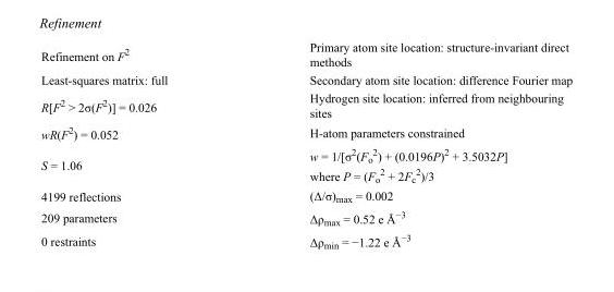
<table><tbody><tr><td>Refinement on F<sup>2</sup></td><td>Primary atom site location: structure-invariant direct methods</td></tr><tr><td>Least-squares matrix: full</td><td>Secondary atom site location: difference Fourier map</td></tr><tr><td>R[F<sup>2</sup> &gt; 2σ(F<sup>2</sup>)] = 0.026</td><td>Hydrogen site location: inferred from neighbouring sites</td></tr><tr><td>wR(F<sup>2</sup>) = 0.052</td><td>H-atom parameters constrained</td></tr><tr><td>S = 1.06</td><td>w = 1/[σ<sup>2</sup>(F<sub>o</sub> <sup>2</sup>) + (0.0196P)<sup>2</sup> + 3.5032P] where P = (F<sub>o</sub> <sup>2</sup> + 2F<sub>c</sub> <sup>2</sup>)/3</td></tr><tr><td>4199 reflections</td><td>(Δ/σ)<sub>max</sub> = 0.002</td></tr><tr><td>209 parameters</td><td>Δρ<sub>max</sub> = 0.52 e Å<sup>−3</sup></td></tr><tr><td>0 restraints</td><td>Δρ<sub>min</sub> = −1.22 e Å<sup>−3</sup></td></tr></tbody></table>